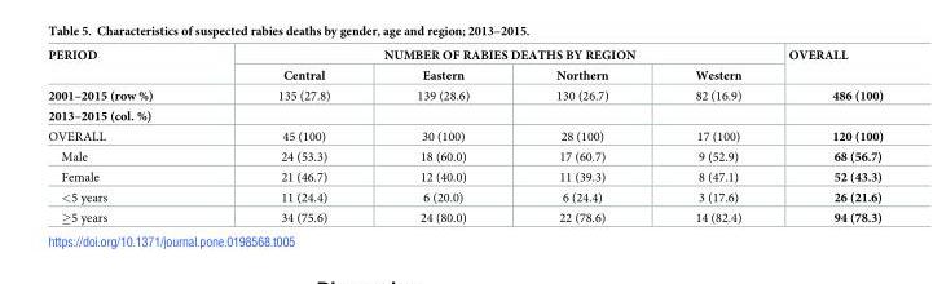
<table><thead><tr><td rowspan="2">PERIOD</td><td colspan="4">NUMBER OF RABIES DEATHS BY REGION</td><td rowspan="2">OVERALL</td></tr><tr><td>Central</td><td>Eastern</td><td>Northern</td><td>Western</td></tr></thead><tbody><tr><td>2001–2015 (row %)</td><td>135 (27.8)</td><td>139 (28.6)</td><td>130 (26.7)</td><td>82 (16.9)</td><td>486 (100)</td></tr><tr><td colspan="6">2013–2015 (col. %)</td></tr><tr><td>OVERALL</td><td>45 (100)</td><td>30 (100)</td><td>28 (100)</td><td>17 (100)</td><td>120 (100)</td></tr><tr><td>Male</td><td>24 (53.3)</td><td>18 (60.0)</td><td>17 (60.7)</td><td>9 (52.9)</td><td>68 (56.7)</td></tr><tr><td>Female</td><td>21 (46.7)</td><td>12 (40.0)</td><td>11 (39.3)</td><td>8 (47.1)</td><td>52 (43.3)</td></tr><tr><td>&lt;5 years</td><td>11 (24.4)</td><td>6 (20.0)</td><td>6 (24.4)</td><td>3 (17.6)</td><td>26 (21.6)</td></tr><tr><td>≥5 years</td><td>34 (75.6)</td><td>24 (80.0)</td><td>22 (78.6)</td><td>14 (82.4)</td><td>94 (78.3)</td></tr></tbody></table>